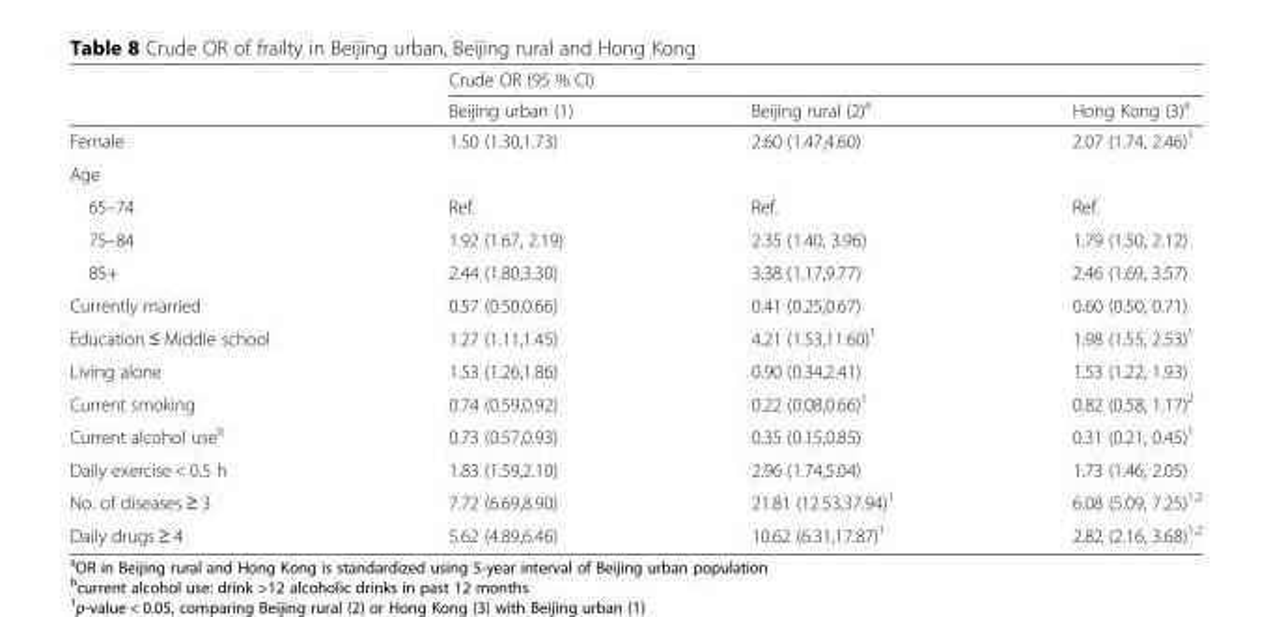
<table><thead><tr><td rowspan="2"></td><td colspan="3">Crude OR (95 % CI)</td></tr><tr><td>Beijing urban (1)</td><td>Beijing rural (2)<sup>a</sup></td><td>Hong Kong (3)<sup>a</sup></td></tr></thead><tbody><tr><td>Female</td><td>1.50 (1.30,1.73)</td><td>2.60 (1.47,4.60)</td><td>2.07 (1.74, 2.46)<sup>1</sup></td></tr><tr><td colspan="4">Age</td></tr><tr><td>65–74</td><td>Ref.</td><td>Ref.</td><td>Ref.</td></tr><tr><td>75–84</td><td>1.92 (1.67, 2.19)</td><td>2.35 (1.40, 3.96)</td><td>1.79 (1.50, 2.12)</td></tr><tr><td>85+</td><td>2.44 (1.80,3.30)</td><td>3.38 (1.17,9.77)</td><td>2.46 (1.69, 3.57)</td></tr><tr><td>Currently married</td><td>0.57 (0.50,0.66)</td><td>0.41 (0.25,0.67)</td><td>0.60 (0.50, 0.71)</td></tr><tr><td>Education ≤ Middle school</td><td>1.27 (1.11,1.45)</td><td>4.21 (1.53,11.60)<sup>1</sup></td><td>1.98 (1.55, 2.53)<sup>1</sup></td></tr><tr><td>Living alone</td><td>1.53 (1.26,1.86)</td><td>0.90 (0.34,2.41)</td><td>1.53 (1.22, 1.93)</td></tr><tr><td>Current smoking</td><td>0.74 (0.59,0.92)</td><td>0.22 (0.08,0.66)<sup>1</sup></td><td>0.82 (0.58, 1.17)<sup>2</sup></td></tr><tr><td>Current alcohol use<sup>b</sup></td><td>0.73 (0.57,0.93)</td><td>0.35 (0.15,0.85)</td><td>0.31 (0.21, 0.45)<sup>1</sup></td></tr><tr><td>Daily exercise &lt; 0.5 h</td><td>1.83 (1.59,2.10)</td><td>2.96 (1.74,5.04)</td><td>1.73 (1.46, 2.05)</td></tr><tr><td>No. of diseases ≥ 3</td><td>7.72 (6.69,8.90)</td><td>21.81 (12.53,37.94)<sup>1</sup></td><td>6.08 (5.09, 7.25)<sup>1,2</sup></td></tr><tr><td>Daily drugs ≥ 4</td><td>5.62 (4.89,6.46)</td><td>10.62 (6.31,17.87)<sup>1</sup></td><td>2.82 (2.16, 3.68)<sup>1,2</sup></td></tr></tbody></table>